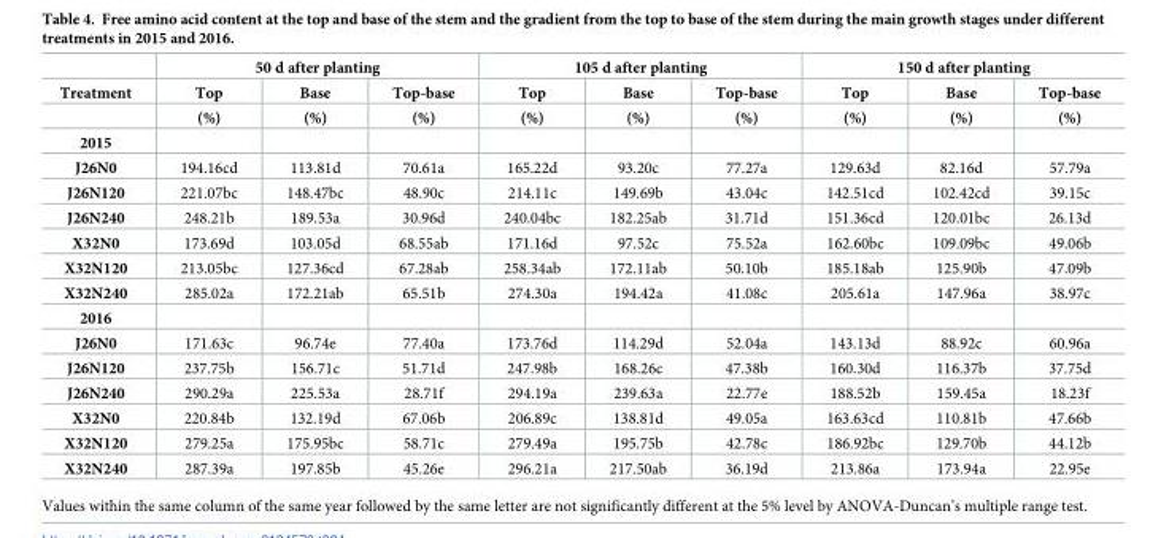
<table><thead><tr><td rowspan="3">Treatment</td><td colspan="3">50 d after planting</td><td colspan="3">105 d after planting</td><td colspan="3">150 d after planting</td></tr><tr><td rowspan="2">Top (%)</td><td rowspan="2">Base (%)</td><td rowspan="2">Top-base (%)</td><td rowspan="2">Top (%)</td><td rowspan="2">Base (%)</td><td rowspan="2">Top-base (%)</td><td rowspan="2">Top (%)</td><td rowspan="2">Base (%)</td><td rowspan="2">Top-base (%)</td></tr><tr></tr></thead><tbody><tr><td colspan="10">2015</td></tr><tr><td>J26N0</td><td>194.16cd</td><td>113.81d</td><td>70.61a</td><td>165.22d</td><td>93.20c</td><td>77.27a</td><td>129.63d</td><td>82.16d</td><td>57.79a</td></tr><tr><td>J26N120</td><td>221.07bc</td><td>148.47bc</td><td>48.90c</td><td>214.11c</td><td>149.69b</td><td>43.04c</td><td>142.51cd</td><td>102.42cd</td><td>39.15c</td></tr><tr><td>J26N240</td><td>248.21b</td><td>189.53a</td><td>30.96d</td><td>240.04bc</td><td>182.25ab</td><td>31.71d</td><td>151.36cd</td><td>120.01bc</td><td>26.13d</td></tr><tr><td>X32N0</td><td>173.69d</td><td>103.05d</td><td>68.55ab</td><td>171.16d</td><td>97.52c</td><td>75.52a</td><td>162.60bc</td><td>109.09bc</td><td>49.06b</td></tr><tr><td>X32N120</td><td>213.05bc</td><td>127.36cd</td><td>67.28ab</td><td>258.34ab</td><td>172.11ab</td><td>50.10b</td><td>185.18ab</td><td>125.90b</td><td>47.09b</td></tr><tr><td>X32N240</td><td>285.02a</td><td>172.21ab</td><td>65.51b</td><td>274.30a</td><td>194.42a</td><td>41.08c</td><td>205.61a</td><td>147.96a</td><td>38.97c</td></tr><tr><td colspan="10">2016</td></tr><tr><td>J26N0</td><td>171.63c</td><td>96.74e</td><td>77.40a</td><td>173.76d</td><td>114.29d</td><td>52.04a</td><td>143.13d</td><td>88.92c</td><td>60.96a</td></tr><tr><td>J26N120</td><td>237.75b</td><td>156.71c</td><td>51.71d</td><td>247.98b</td><td>168.26c</td><td>47.38b</td><td>160.30d</td><td>116.37b</td><td>37.75d</td></tr><tr><td>J26N240</td><td>290.29a</td><td>225.53a</td><td>28.71f</td><td>294.19a</td><td>239.63a</td><td>22.77e</td><td>188.52b</td><td>159.45a</td><td>18.23f</td></tr><tr><td>X32N0</td><td>220.84b</td><td>132.19d</td><td>67.06b</td><td>206.89c</td><td>138.81d</td><td>49.05a</td><td>163.63cd</td><td>110.81b</td><td>47.66b</td></tr><tr><td>X32N120</td><td>279.25a</td><td>175.95bc</td><td>58.71c</td><td>279.49a</td><td>195.75b</td><td>42.78c</td><td>186.92bc</td><td>129.70b</td><td>44.12b</td></tr><tr><td>X32N240</td><td>287.39a</td><td>197.85b</td><td>45.26e</td><td>296.21a</td><td>217.50ab</td><td>36.19d</td><td>213.86a</td><td>173.94a</td><td>22.95e</td></tr></tbody></table>